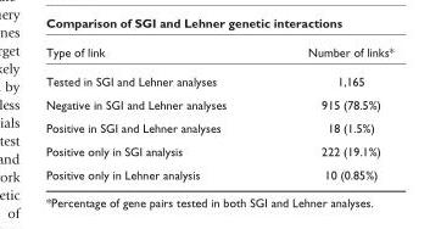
<table><thead><tr><td>Type of link</td><td>Number of links*</td></tr></thead><tbody><tr><td>Tested in SGI and Lehner analyses</td><td>1,165</td></tr><tr><td>Negative in SGI and Lehner analyses</td><td>915 (78.5%)</td></tr><tr><td>Positive in SGI and Lehner analyses</td><td>18 (1.5%)</td></tr><tr><td>Positive only in SGI analysis</td><td>222 (19.1%)</td></tr><tr><td>Positive only in Lehner analysis</td><td>10 (0.85%)</td></tr></tbody></table>